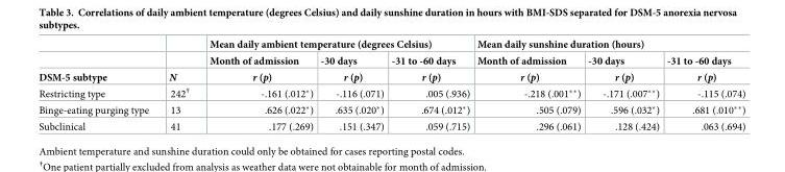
<table><thead><tr><td rowspan="3">DSM-5 subtype</td><td rowspan="3">N</td><td colspan="3">Mean daily ambient temperature (degrees Celsius)</td><td colspan="3">Mean daily sunshine duration (hours)</td></tr><tr><td rowspan="2">Month of admission r (p)</td><td rowspan="2">-30 days r (p)</td><td rowspan="2">-31 to -60 days r (p)</td><td rowspan="2">Month of admission r (p)</td><td rowspan="2">-30 days r (p)</td><td rowspan="2">-31 to -60 days r (p)</td></tr><tr></tr></thead><tbody><tr><td>Restricting type</td><td>242<sup>†</sup></td><td>-.161 (.012*)</td><td>-.116 (.071)</td><td>.005 (.936)</td><td>-.218 (.001**)</td><td>-.171 (.007**)</td><td>-.115 (.074)</td></tr><tr><td>Binge-eating purging type</td><td>13</td><td>.626 (.022*)</td><td>.635 (.020*)</td><td>.674 (.012*)</td><td>.505 (.079)</td><td>.596 (.032*)</td><td>.681 (.010**)</td></tr><tr><td>Subclinical</td><td>41</td><td>.177 (.269)</td><td>.151 (.347)</td><td>.059 (.715)</td><td>.296 (.061)</td><td>.128 (.424)</td><td>.063 (.694)</td></tr></tbody></table>